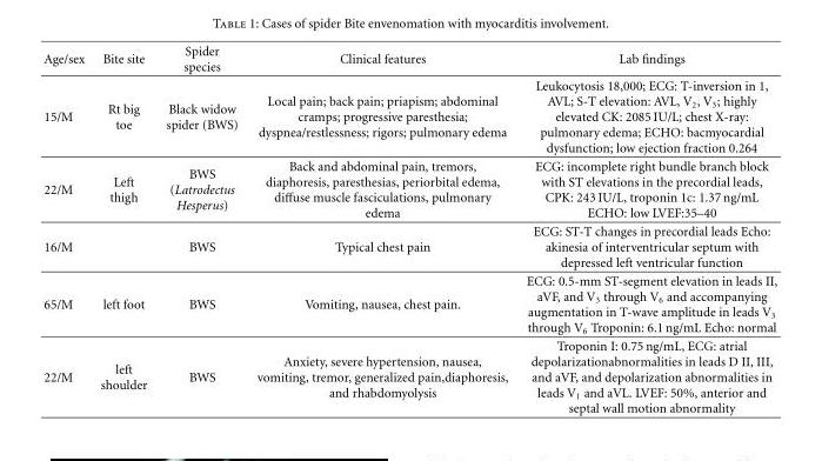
<table><thead><tr><td>Age/sex</td><td>Bite site</td><td>Spider species</td><td>Clinical features</td><td>Lab findings</td></tr></thead><tbody><tr><td>15/M</td><td>Rt big toe</td><td>Black widow spider (BWS)</td><td>Local pain; back pain; priapism; abdominal cramps; progressive paresthesia; dyspnea/restlessness; rigors; pulmonary edema</td><td>Leukocytosis 18,000; ECG: T-inversion in 1, AVL; S-T elevation: AVL, V<sub>2</sub>, V<sub>3</sub>; highly elevated CK: 2085 IU/L; chest X-ray: pulmonary edema; ECHO: bacmyocardial dysfunction; low ejection fraction 0.264</td></tr><tr><td>22/M</td><td>Left thigh</td><td>BWS (Latrodectus Hesperus)</td><td>Back and abdominal pain, tremors, diaphoresis, paresthesias, periorbital edema, diffuse muscle fasciculations, pulmonary edema</td><td>ECG: incomplete right bundle branch block with ST elevations in the precordial leads, CPK: 243 IU/L, troponin 1c: 1.37 ng/mL ECHO: low LVEF:35–40</td></tr><tr><td>16/M</td><td></td><td>BWS</td><td>Typical chest pain</td><td>ECG: ST-T changes in precordial leads Echo: akinesia of interventricular septum with depressed left ventricular function</td></tr><tr><td>65/M</td><td>left foot</td><td>BWS</td><td>Vomiting, nausea, chest pain.</td><td>ECG: 0.5-mm ST-segment elevation in leads II, aVF, and V<sub>3</sub> through V<sub>6</sub> and accompanying augmentation in T-wave amplitude in leads V<sub>3</sub> through V<sub>6</sub> Troponin: 6.1 ng/mL Echo: normal</td></tr><tr><td>22/M</td><td>left shoulder</td><td>BWS</td><td>Anxiety, severe hypertension, nausea, vomiting, tremor, generalized pain,diaphoresis, and rhabdomyolysis</td><td>Troponin I: 0.75 ng/mL, ECG: atrial depolarizationabnormalities in leads D II, III, and aVF, and depolarization abnormalities in leads V<sub>1</sub> and aVL. LVEF: 50%, anterior and septal wall motion abnormality</td></tr></tbody></table>